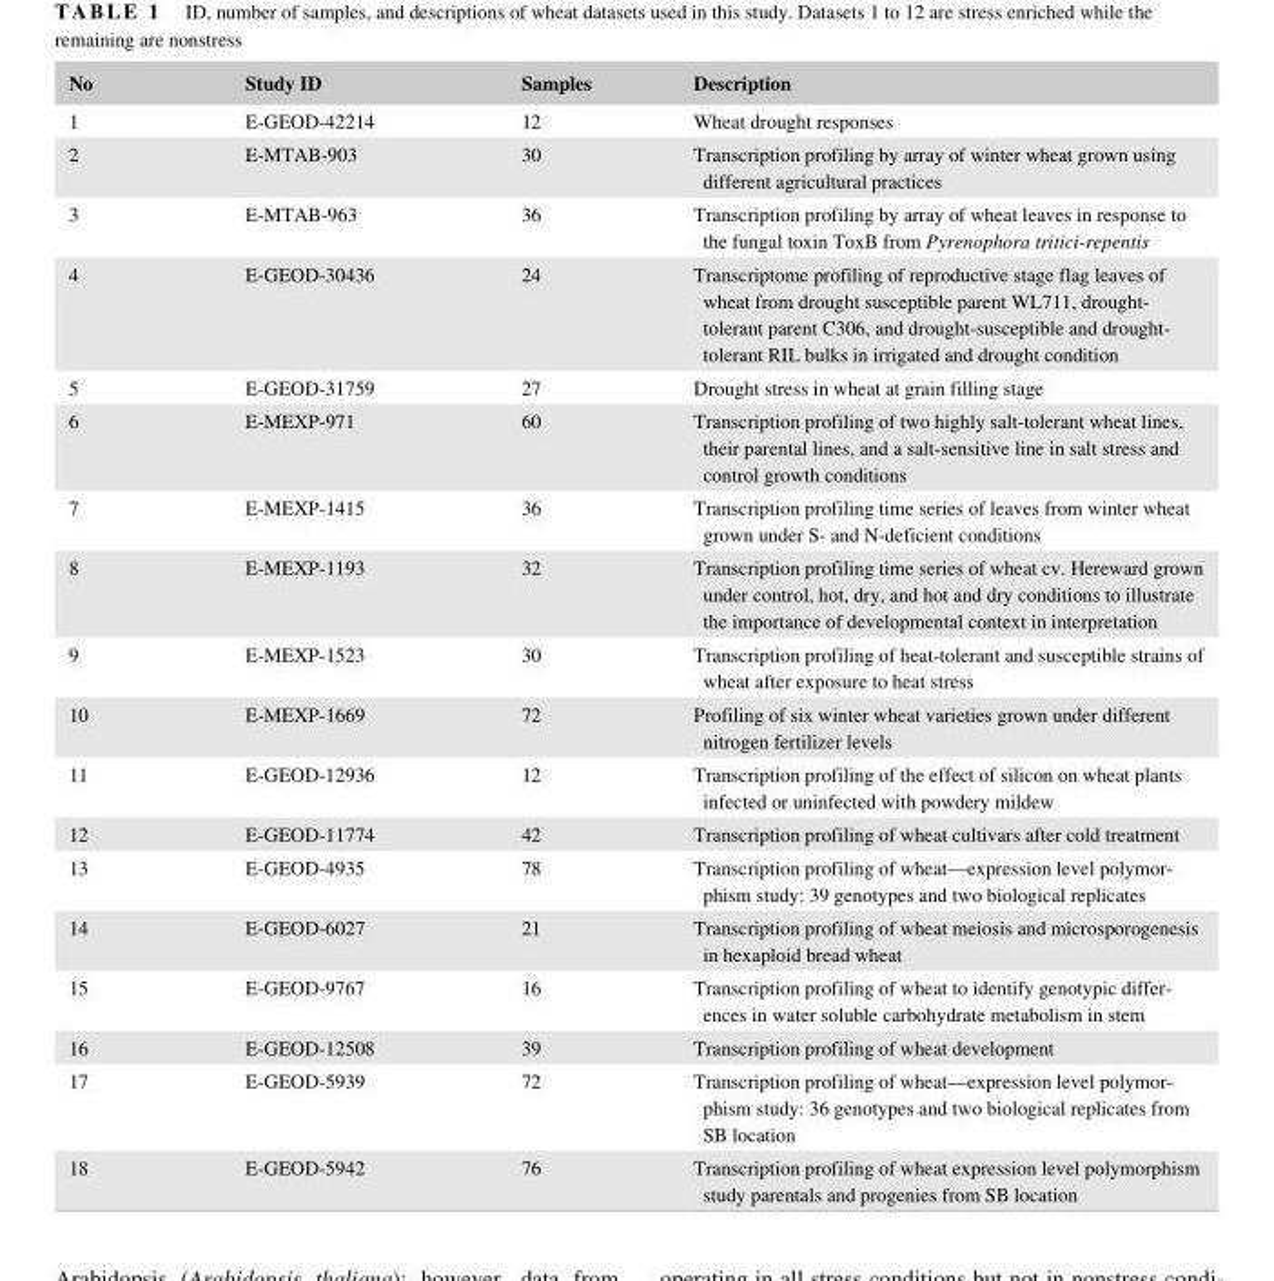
<table><thead><tr><td>No</td><td>Study ID</td><td>Samples</td><td>Description</td></tr></thead><tbody><tr><td>1</td><td>E- GEOD- 42214</td><td>12</td><td>Wheat drought responses</td></tr><tr><td>2</td><td>E- MTAB- 903</td><td>30</td><td>Transcription profiling by array of winter wheat grown using different agricultural practices</td></tr><tr><td>3</td><td>E- MTAB- 963</td><td>36</td><td>Transcription profiling by array of wheat leaves in response to the fungal toxin ToxB from Pyrenophora tritici-repentis</td></tr><tr><td>4</td><td>E- GEOD- 30436</td><td>24</td><td>Transcriptome profiling of reproductive stage flag leaves of wheat from drought susceptible parent WL711, drought- tolerant parent C306, and drought- susceptible and drought- tolerant RIL bulks in irrigated and drought condition</td></tr><tr><td>5</td><td>E- GEOD- 31759</td><td>27</td><td>Drought stress in wheat at grain filling stage</td></tr><tr><td>6</td><td>E- MEXP- 971</td><td>60</td><td>Transcription profiling of two highly salt- tolerant wheat lines, their parental lines, and a salt- sensitive line in salt stress and control growth conditions</td></tr><tr><td>7</td><td>E- MEXP- 1415</td><td>36</td><td>Transcription profiling time series of leaves from winter wheat grown under S- and N- deficient conditions</td></tr><tr><td>8</td><td>E- MEXP- 1193</td><td>32</td><td>Transcription profiling time series of wheat cv. Hereward grown under control, hot, dry, and hot and dry conditions to illustrate the importance of developmental context in interpretation</td></tr><tr><td>9</td><td>E- MEXP- 1523</td><td>30</td><td>Transcription profiling of heat- tolerant and susceptible strains of wheat after exposure to heat stress</td></tr><tr><td>10</td><td>E- MEXP- 1669</td><td>72</td><td>Profiling of six winter wheat varieties grown under different nitrogen fertilizer levels</td></tr><tr><td>11</td><td>E- GEOD- 12936</td><td>12</td><td>Transcription profiling of the effect of silicon on wheat plants infected or uninfected with powdery mildew</td></tr><tr><td>12</td><td>E- GEOD- 11774</td><td>42</td><td>Transcription profiling of wheat cultivars after cold treatment</td></tr><tr><td>13</td><td>E- GEOD- 4935</td><td>78</td><td>Transcription profiling of wheat—expression level polymor- phism study: 39 genotypes and two biological replicates</td></tr><tr><td>14</td><td>E- GEOD- 6027</td><td>21</td><td>Transcription profiling of wheat meiosis and microsporogenesis in hexaploid bread wheat</td></tr><tr><td>15</td><td>E- GEOD- 9767</td><td>16</td><td>Transcription profiling of wheat to identify genotypic differ- ences in water soluble carbohydrate metabolism in stem</td></tr><tr><td>16</td><td>E- GEOD- 12508</td><td>39</td><td>Transcription profiling of wheat development</td></tr><tr><td>17</td><td>E- GEOD- 5939</td><td>72</td><td>Transcription profiling of wheat—expression level polymor- phism study: 36 genotypes and two biological replicates from SB location</td></tr><tr><td>18</td><td>E- GEOD- 5942</td><td>76</td><td>Transcription profiling of wheat expression level polymorphism study parentals and progenies from SB location</td></tr></tbody></table>